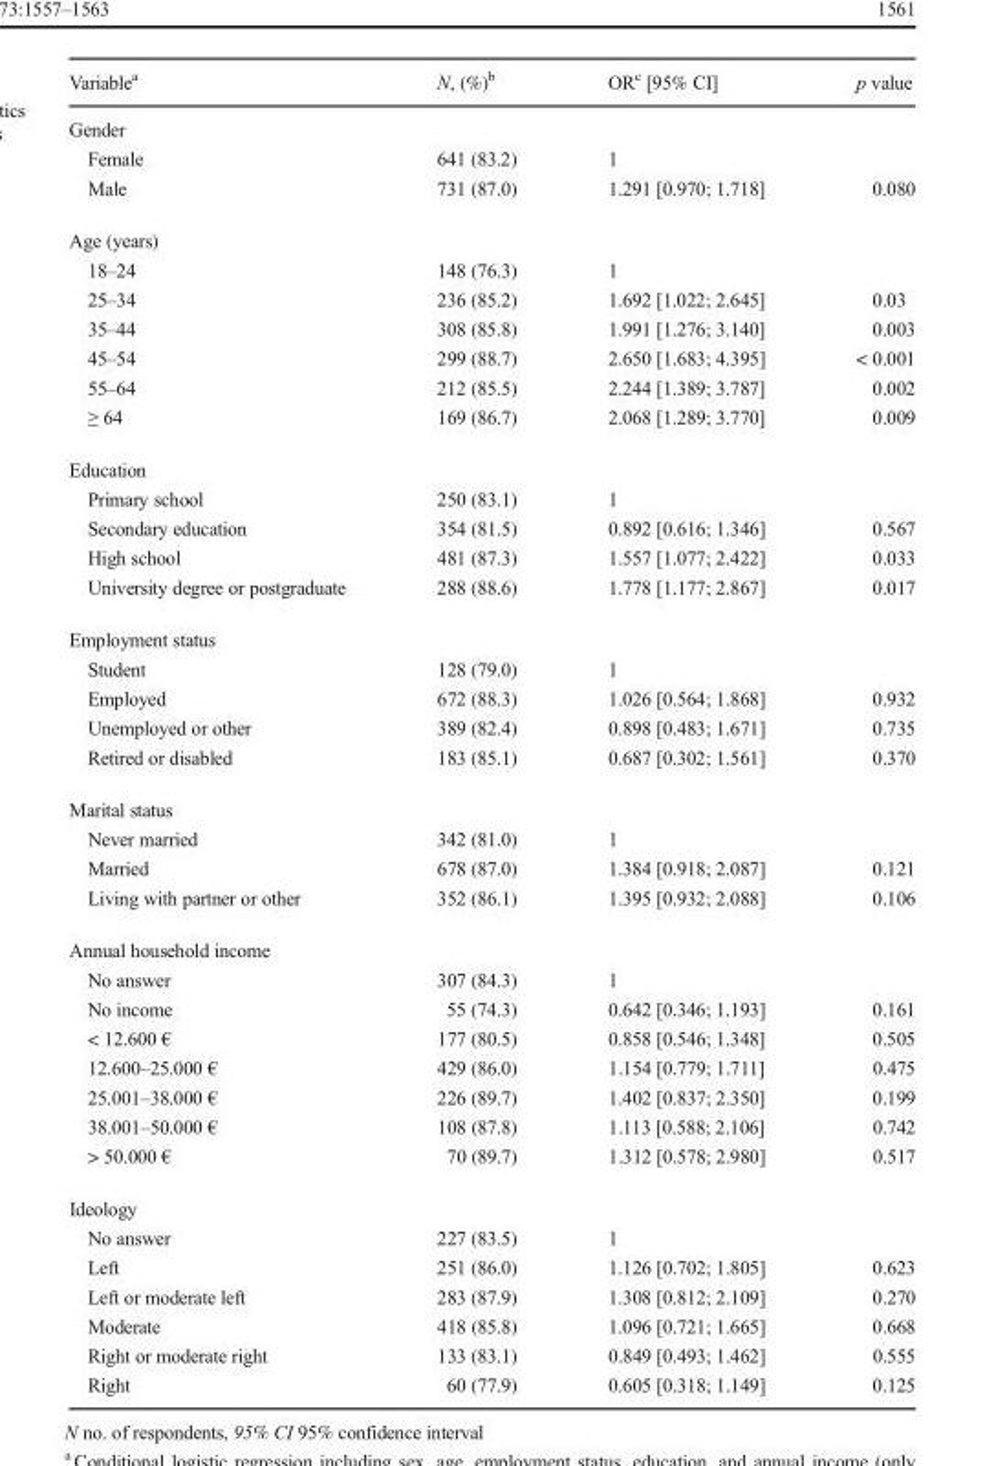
<table><thead><tr><td>Variable<sup>a</sup></td><td>N, (%)<sup>b</sup></td><td>OR<sup>c</sup> [95% CI]</td><td>p value</td></tr></thead><tbody><tr><td colspan="4">Gender</td></tr><tr><td>Female</td><td>641 (83.2)</td><td>1</td><td></td></tr><tr><td>Male</td><td>731 (87.0)</td><td>1.291 [0.970; 1.718]</td><td>0.080</td></tr><tr><td colspan="4">Age (years)</td></tr><tr><td>18–24</td><td>148 (76.3)</td><td>1</td><td></td></tr><tr><td>25–34</td><td>236 (85.2)</td><td>1.692 [1.022; 2.645]</td><td>0.03</td></tr><tr><td>35–44</td><td>308 (85.8)</td><td>1.991 [1.276; 3.140]</td><td>0.003</td></tr><tr><td>45–54</td><td>299 (88.7)</td><td>2.650 [1.683; 4.395]</td><td>&lt; 0.001</td></tr><tr><td>55–64</td><td>212 (85.5)</td><td>2.244 [1.389; 3.787]</td><td>0.002</td></tr><tr><td>≥ 64</td><td>169 (86.7)</td><td>2.068 [1.289; 3.770]</td><td>0.009</td></tr><tr><td colspan="4">Education</td></tr><tr><td>Primary school</td><td>250 (83.1)</td><td>1</td><td></td></tr><tr><td>Secondary education</td><td>354 (81.5)</td><td>0.892 [0.616; 1.346]</td><td>0.567</td></tr><tr><td>High school</td><td>481 (87.3)</td><td>1.557 [1.077; 2.422]</td><td>0.033</td></tr><tr><td>University degree or postgraduate</td><td>288 (88.6)</td><td>1.778 [1.177; 2.867]</td><td>0.017</td></tr><tr><td colspan="4">Employment status</td></tr><tr><td>Student</td><td>128 (79.0)</td><td>1</td><td></td></tr><tr><td>Employed</td><td>672 (88.3)</td><td>1.026 [0.564; 1.868]</td><td>0.932</td></tr><tr><td>Unemployed or other</td><td>389 (82.4)</td><td>0.898 [0.483; 1.671]</td><td>0.735</td></tr><tr><td>Retired or disabled</td><td>183 (85.1)</td><td>0.687 [0.302; 1.561]</td><td>0.370</td></tr><tr><td colspan="4">Marital status</td></tr><tr><td>Never married</td><td>342 (81.0)</td><td>1</td><td></td></tr><tr><td>Married</td><td>678 (87.0)</td><td>1.384 [0.918; 2.087]</td><td>0.121</td></tr><tr><td>Living with partner or other</td><td>352 (86.1)</td><td>1.395 [0.932; 2.088]</td><td>0.106</td></tr><tr><td colspan="4">Annual household income</td></tr><tr><td>No answer</td><td>307 (84.3)</td><td>1</td><td></td></tr><tr><td>No income</td><td>55 (74.3)</td><td>0.642 [0.346; 1.193]</td><td>0.161</td></tr><tr><td>&lt; 12.600 €</td><td>177 (80.5)</td><td>0.858 [0.546; 1.348]</td><td>0.505</td></tr><tr><td>12.600–25.000 €</td><td>429 (86.0)</td><td>1.154 [0.779; 1.711]</td><td>0.475</td></tr><tr><td>25.001–38.000 €</td><td>226 (89.7)</td><td>1.402 [0.837; 2.350]</td><td>0.199</td></tr><tr><td>38.001–50.000 €</td><td>108 (87.8)</td><td>1.113 [0.588; 2.106]</td><td>0.742</td></tr><tr><td>&gt; 50.000 €</td><td>70 (89.7)</td><td>1.312 [0.578; 2.980]</td><td>0.517</td></tr><tr><td colspan="4">Ideology</td></tr><tr><td>No answer</td><td>227 (83.5)</td><td>1</td><td></td></tr><tr><td>Left</td><td>251 (86.0)</td><td>1.126 [0.702; 1.805]</td><td>0.623</td></tr><tr><td>Left or moderate left</td><td>283 (87.9)</td><td>1.308 [0.812; 2.109]</td><td>0.270</td></tr><tr><td>Moderate</td><td>418 (85.8)</td><td>1.096 [0.721; 1.665]</td><td>0.668</td></tr><tr><td>Right or moderate right</td><td>133 (83.1)</td><td>0.849 [0.493; 1.462]</td><td>0.555</td></tr><tr><td>Right</td><td>60 (77.9)</td><td>0.605 [0.318; 1.149]</td><td>0.125</td></tr></tbody></table>